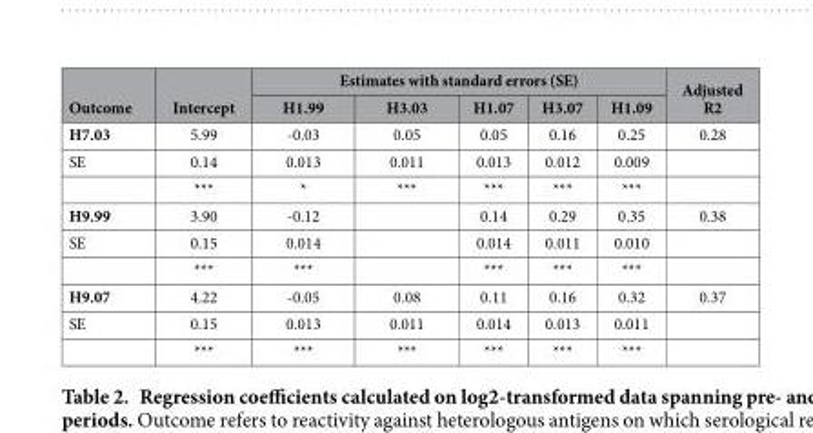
<table><thead><tr><td rowspan="2">Outcome</td><td rowspan="2">Intercept</td><td colspan="5">Estimates with standard errors (SE)</td><td rowspan="2">Adjusted R2</td></tr><tr><td>H1.99</td><td>H3.03</td><td>H1.07</td><td>H3.07</td><td>H1.09</td></tr></thead><tbody><tr><td>H7.03</td><td>5.99</td><td>-0.03</td><td>0.05</td><td>0.05</td><td>0.16</td><td>0.25</td><td>0.28</td></tr><tr><td rowspan="2">SE</td><td>0.14</td><td>0.013</td><td>0.011</td><td>0.013</td><td>0.012</td><td>0.009</td><td></td></tr><tr><td>***</td><td>*</td><td>***</td><td>***</td><td>***</td><td>***</td><td></td></tr><tr><td>H9.99</td><td>3.90</td><td>-0.12</td><td></td><td>0.14</td><td>0.29</td><td>0.35</td><td>0.38</td></tr><tr><td rowspan="2">SE</td><td>0.15</td><td>0.014</td><td></td><td>0.014</td><td>0.011</td><td>0.010</td><td></td></tr><tr><td>***</td><td>***</td><td></td><td>***</td><td>***</td><td>***</td><td></td></tr><tr><td>H9.07</td><td>4.22</td><td>-0.05</td><td>0.08</td><td>0.11</td><td>0.16</td><td>0.32</td><td>0.37</td></tr><tr><td rowspan="2">SE</td><td>0.15</td><td>0.013</td><td>0.011</td><td>0.014</td><td>0.013</td><td>0.011</td><td></td></tr><tr><td>***</td><td>***</td><td>***</td><td>***</td><td>***</td><td>***</td><td></td></tr></tbody></table>